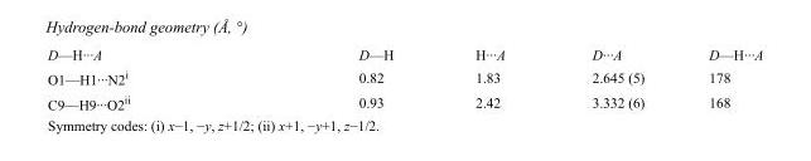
<table><tbody><tr><td>D—H···A</td><td>D—H</td><td>H···A</td><td>D···A</td><td>D—H···A</td></tr><tr><td>O1—H1···N2<sup>i</sup></td><td>0.82</td><td>1.83</td><td>2.645 (5)</td><td>178</td></tr><tr><td>C9—H9···O2<sup>ii</sup></td><td>0.93</td><td>2.42</td><td>3.332 (6)</td><td>168</td></tr></tbody></table>